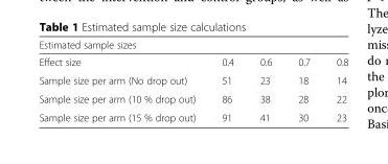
<table><thead><tr><td colspan="5">Estimated sample sizes</td></tr><tr><td>Effect size</td><td>0.4</td><td>0.6</td><td>0.7</td><td>0.8</td></tr></thead><tbody><tr><td>Sample size per arm (No drop out)</td><td>51</td><td>23</td><td>18</td><td>14</td></tr><tr><td>Sample size per arm (10 % drop out)</td><td>86</td><td>38</td><td>28</td><td>22</td></tr><tr><td>Sample size per arm (15 % drop out)</td><td>91</td><td>41</td><td>30</td><td>23</td></tr></tbody></table>